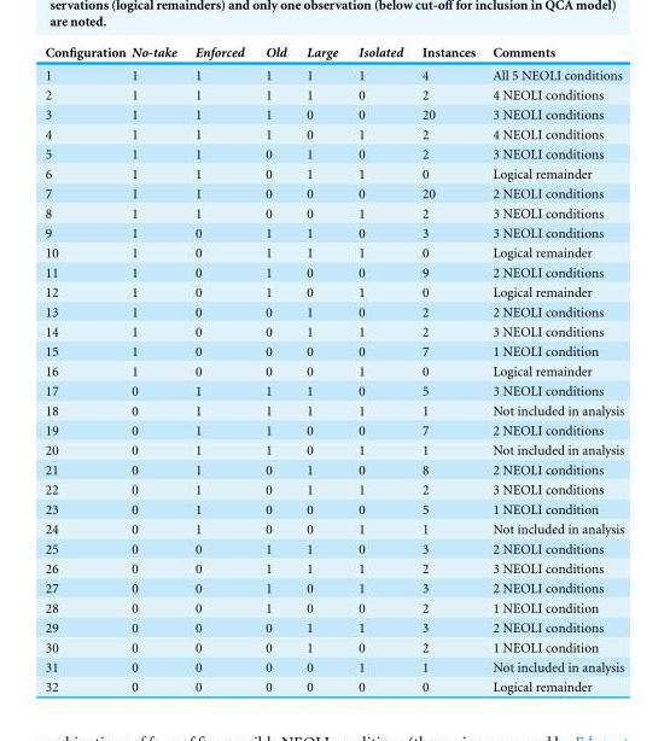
<table><thead><tr><td>Configuration</td><td>No-take</td><td>Enforced</td><td>Old</td><td>Large</td><td>Isolated</td><td>Instances</td><td>Comments</td></tr></thead><tbody><tr><td>1</td><td>1</td><td>1</td><td>1</td><td>1</td><td>1</td><td>4</td><td>All 5 NEOLI conditions</td></tr><tr><td>2</td><td>1</td><td>1</td><td>1</td><td>1</td><td>0</td><td>2</td><td>4 NEOLI conditions</td></tr><tr><td>3</td><td>1</td><td>1</td><td>1</td><td>0</td><td>0</td><td>20</td><td>3 NEOLI conditions</td></tr><tr><td>4</td><td>1</td><td>1</td><td>1</td><td>0</td><td>1</td><td>2</td><td>4 NEOLI conditions</td></tr><tr><td>5</td><td>1</td><td>1</td><td>0</td><td>1</td><td>0</td><td>2</td><td>3 NEOLI conditions</td></tr><tr><td>6</td><td>1</td><td>1</td><td>0</td><td>1</td><td>1</td><td>0</td><td>Logical remainder</td></tr><tr><td>7</td><td>1</td><td>1</td><td>0</td><td>0</td><td>0</td><td>20</td><td>2 NEOLI conditions</td></tr><tr><td>8</td><td>1</td><td>1</td><td>0</td><td>0</td><td>1</td><td>2</td><td>3 NEOLI conditions</td></tr><tr><td>9</td><td>1</td><td>0</td><td>1</td><td>1</td><td>0</td><td>3</td><td>3 NEOLI conditions</td></tr><tr><td>10</td><td>1</td><td>0</td><td>1</td><td>1</td><td>1</td><td>0</td><td>Logical remainder</td></tr><tr><td>11</td><td>1</td><td>0</td><td>1</td><td>0</td><td>0</td><td>9</td><td>2 NEOLI conditions</td></tr><tr><td>12</td><td>1</td><td>0</td><td>1</td><td>0</td><td>1</td><td>0</td><td>Logical remainder</td></tr><tr><td>13</td><td>1</td><td>0</td><td>0</td><td>1</td><td>0</td><td>2</td><td>2 NEOLI conditions</td></tr><tr><td>14</td><td>1</td><td>0</td><td>0</td><td>1</td><td>1</td><td>2</td><td>3 NEOLI conditions</td></tr><tr><td>15</td><td>1</td><td>0</td><td>0</td><td>0</td><td>0</td><td>7</td><td>1 NEOLI condition</td></tr><tr><td>16</td><td>1</td><td>0</td><td>0</td><td>0</td><td>1</td><td>0</td><td>Logical remainder</td></tr><tr><td>17</td><td>0</td><td>1</td><td>1</td><td>1</td><td>0</td><td>5</td><td>3 NEOLI conditions</td></tr><tr><td>18</td><td>0</td><td>1</td><td>1</td><td>1</td><td>1</td><td>1</td><td>Not included in analysis</td></tr><tr><td>19</td><td>0</td><td>1</td><td>1</td><td>0</td><td>0</td><td>7</td><td>2 NEOLI conditions</td></tr><tr><td>20</td><td>0</td><td>1</td><td>1</td><td>0</td><td>1</td><td>1</td><td>Not included in analysis</td></tr><tr><td>21</td><td>0</td><td>1</td><td>0</td><td>1</td><td>0</td><td>8</td><td>2 NEOLI conditions</td></tr><tr><td>22</td><td>0</td><td>1</td><td>0</td><td>1</td><td>1</td><td>2</td><td>3 NEOLI conditions</td></tr><tr><td>23</td><td>0</td><td>1</td><td>0</td><td>0</td><td>0</td><td>5</td><td>1 NEOLI condition</td></tr><tr><td>24</td><td>0</td><td>1</td><td>0</td><td>0</td><td>1</td><td>1</td><td>Not included in analysis</td></tr><tr><td>25</td><td>0</td><td>0</td><td>1</td><td>1</td><td>0</td><td>3</td><td>2 NEOLI conditions</td></tr><tr><td>26</td><td>0</td><td>0</td><td>1</td><td>1</td><td>1</td><td>2</td><td>3 NEOLI conditions</td></tr><tr><td>27</td><td>0</td><td>0</td><td>1</td><td>0</td><td>1</td><td>3</td><td>2 NEOLI conditions</td></tr><tr><td>28</td><td>0</td><td>0</td><td>1</td><td>0</td><td>0</td><td>2</td><td>1 NEOLI condition</td></tr><tr><td>29</td><td>0</td><td>0</td><td>0</td><td>1</td><td>1</td><td>3</td><td>2 NEOLI conditions</td></tr><tr><td>30</td><td>0</td><td>0</td><td>0</td><td>1</td><td>0</td><td>2</td><td>1 NEOLI condition</td></tr><tr><td>31</td><td>0</td><td>0</td><td>0</td><td>0</td><td>1</td><td>1</td><td>Not included in analysis</td></tr><tr><td>32</td><td>0</td><td>0</td><td>0</td><td>0</td><td>0</td><td>0</td><td>Logical remainder</td></tr></tbody></table>